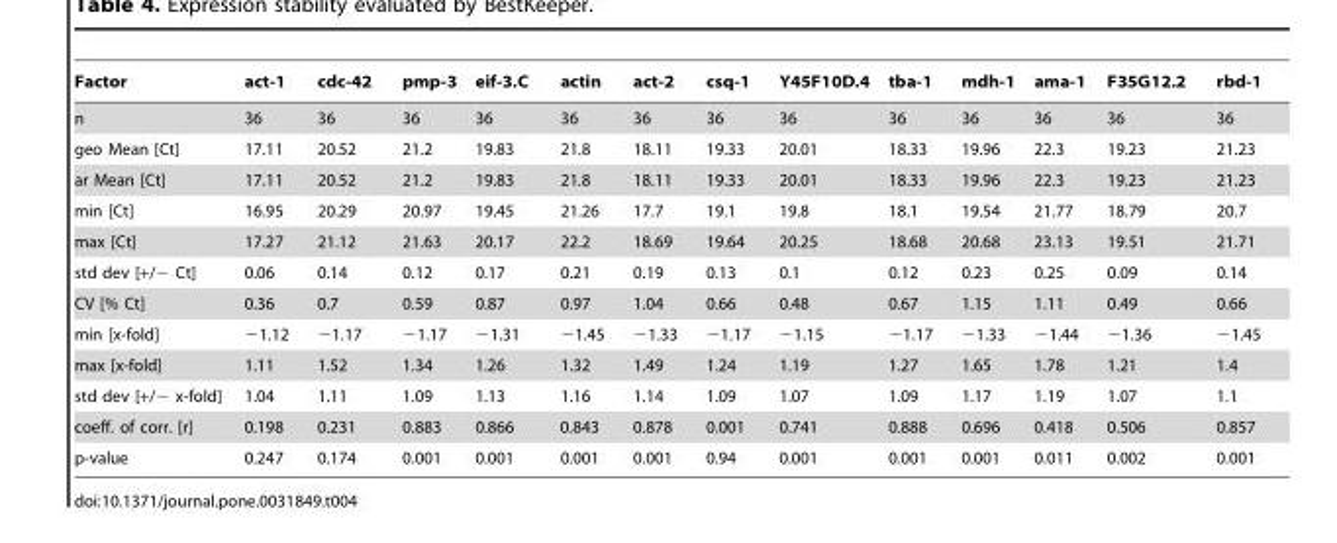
<table><thead><tr><td>Factor</td><td>act-1</td><td>cdc-42</td><td>pmp-3</td><td>eif-3.C</td><td>actin</td><td>act-2</td><td>csq-1</td><td>Y45F10D.4</td><td>tba-1</td><td>mdh-1</td><td>ama-1</td><td>F35G12.2</td><td>rbd-1</td></tr></thead><tbody><tr><td>n</td><td>36</td><td>36</td><td>36</td><td>36</td><td>36</td><td>36</td><td>36</td><td>36</td><td>36</td><td>36</td><td>36</td><td>36</td><td>36</td></tr><tr><td>geo Mean [Ct]</td><td>17.11</td><td>20.52</td><td>21.2</td><td>19.83</td><td>21.8</td><td>18.11</td><td>19.33</td><td>20.01</td><td>18.33</td><td>19.96</td><td>22.3</td><td>19.23</td><td>21.23</td></tr><tr><td>ar Mean [Ct]</td><td>17.11</td><td>20.52</td><td>21.2</td><td>19.83</td><td>21.8</td><td>18.11</td><td>19.33</td><td>20.01</td><td>18.33</td><td>19.96</td><td>22.3</td><td>19.23</td><td>21.23</td></tr><tr><td>min [Ct]</td><td>16.95</td><td>20.29</td><td>20.97</td><td>19.45</td><td>21.26</td><td>17.7</td><td>19.1</td><td>19.8</td><td>18.1</td><td>19.54</td><td>21.77</td><td>18.79</td><td>20.7</td></tr><tr><td>max [Ct]</td><td>17.27</td><td>21.12</td><td>21.63</td><td>20.17</td><td>22.2</td><td>18.69</td><td>19.64</td><td>20.25</td><td>18.68</td><td>20.68</td><td>23.13</td><td>19.51</td><td>21.71</td></tr><tr><td>std dev [+/− Ct]</td><td>0.06</td><td>0.14</td><td>0.12</td><td>0.17</td><td>0.21</td><td>0.19</td><td>0.13</td><td>0.1</td><td>0.12</td><td>0.23</td><td>0.25</td><td>0.09</td><td>0.14</td></tr><tr><td>CV [% Ct]</td><td>0.36</td><td>0.7</td><td>0.59</td><td>0.87</td><td>0.97</td><td>1.04</td><td>0.66</td><td>0.48</td><td>0.67</td><td>1.15</td><td>1.11</td><td>0.49</td><td>0.66</td></tr><tr><td>min [x-fold]</td><td>−1.12</td><td>−1.17</td><td>−1.17</td><td>−1.31</td><td>−1.45</td><td>−1.33</td><td>−1.17</td><td>−1.15</td><td>−1.17</td><td>−1.33</td><td>−1.44</td><td>−1.36</td><td>−1.45</td></tr><tr><td>max [x-fold]</td><td>1.11</td><td>1.52</td><td>1.34</td><td>1.26</td><td>1.32</td><td>1.49</td><td>1.24</td><td>1.19</td><td>1.27</td><td>1.65</td><td>1.78</td><td>1.21</td><td>1.4</td></tr><tr><td>std dev [+/− x-fold]</td><td>1.04</td><td>1.11</td><td>1.09</td><td>1.13</td><td>1.16</td><td>1.14</td><td>1.09</td><td>1.07</td><td>1.09</td><td>1.17</td><td>1.19</td><td>1.07</td><td>1.1</td></tr><tr><td>coeff. of corr. [r]</td><td>0.198</td><td>0.231</td><td>0.883</td><td>0.866</td><td>0.843</td><td>0.878</td><td>0.001</td><td>0.741</td><td>0.888</td><td>0.696</td><td>0.418</td><td>0.506</td><td>0.857</td></tr><tr><td>p-value</td><td>0.247</td><td>0.174</td><td>0.001</td><td>0.001</td><td>0.001</td><td>0.001</td><td>0.94</td><td>0.001</td><td>0.001</td><td>0.001</td><td>0.011</td><td>0.002</td><td>0.001</td></tr></tbody></table>